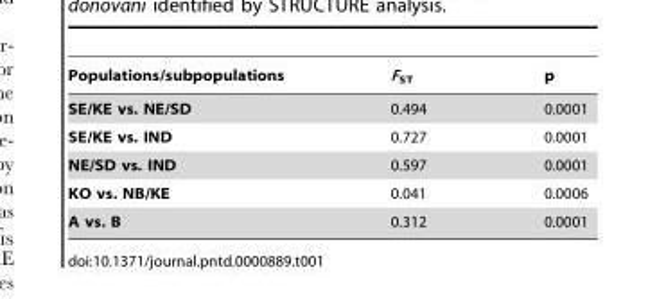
<table><thead><tr><td>Populations/subpopulations</td><td>F<sub>ST</sub></td><td>p</td></tr></thead><tbody><tr><td>SE/KE vs. NE/SD</td><td>0.494</td><td>0.0001</td></tr><tr><td>SE/KE vs. IND</td><td>0.727</td><td>0.0001</td></tr><tr><td>NE/SD vs. IND</td><td>0.597</td><td>0.0001</td></tr><tr><td>KO vs. NB/KE</td><td>0.041</td><td>0.0006</td></tr><tr><td>A vs. B</td><td>0.312</td><td>0.0001</td></tr></tbody></table>